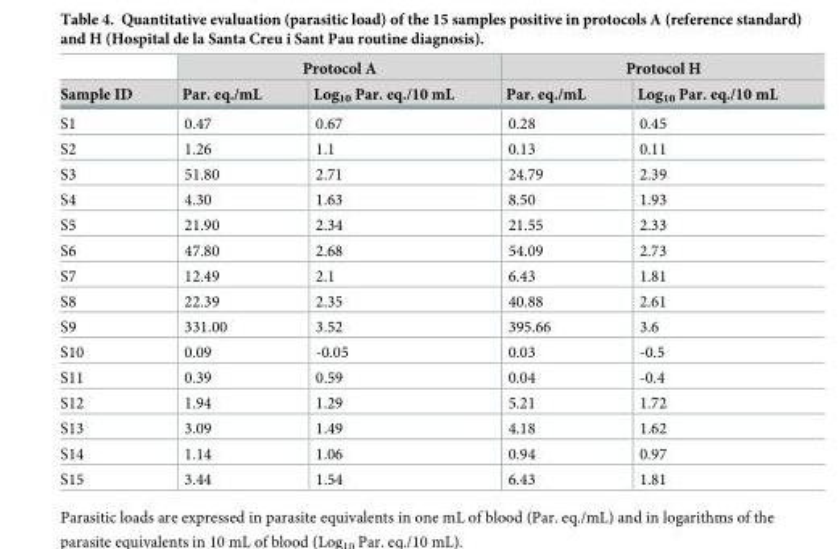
<table><thead><tr><td rowspan="2">Sample ID</td><td colspan="2">Protocol A</td><td colspan="2">Protocol H</td></tr><tr><td>Par. eq./mL</td><td>Log<sub>10</sub> Par. eq./10 mL</td><td>Par. eq./mL</td><td>Log<sub>10</sub> Par. eq./10 mL</td></tr></thead><tbody><tr><td>S1</td><td>0.47</td><td>0.67</td><td>0.28</td><td>0.45</td></tr><tr><td>S2</td><td>1.26</td><td>1.1</td><td>0.13</td><td>0.11</td></tr><tr><td>S3</td><td>51.80</td><td>2.71</td><td>24.79</td><td>2.39</td></tr><tr><td>S4</td><td>4.30</td><td>1.63</td><td>8.50</td><td>1.93</td></tr><tr><td>S5</td><td>21.90</td><td>2.34</td><td>21.55</td><td>2.33</td></tr><tr><td>S6</td><td>47.80</td><td>2.68</td><td>54.09</td><td>2.73</td></tr><tr><td>S7</td><td>12.49</td><td>2.1</td><td>6.43</td><td>1.81</td></tr><tr><td>S8</td><td>22.39</td><td>2.35</td><td>40.88</td><td>2.61</td></tr><tr><td>S9</td><td>331.00</td><td>3.52</td><td>395.66</td><td>3.6</td></tr><tr><td>S10</td><td>0.09</td><td>-0.05</td><td>0.03</td><td>-0.5</td></tr><tr><td>S11</td><td>0.39</td><td>0.59</td><td>0.04</td><td>-0.4</td></tr><tr><td>S12</td><td>1.94</td><td>1.29</td><td>5.21</td><td>1.72</td></tr><tr><td>S13</td><td>3.09</td><td>1.49</td><td>4.18</td><td>1.62</td></tr><tr><td>S14</td><td>1.14</td><td>1.06</td><td>0.94</td><td>0.97</td></tr><tr><td>S15</td><td>3.44</td><td>1.54</td><td>6.43</td><td>1.81</td></tr></tbody></table>